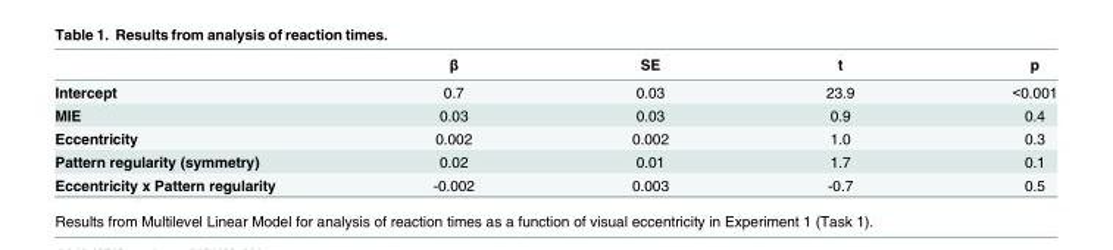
<table><thead><tr><td></td><td>β</td><td>SE</td><td>t</td><td>p</td></tr></thead><tbody><tr><td>Intercept</td><td>0.7</td><td>0.03</td><td>23.9</td><td>&lt;0.001</td></tr><tr><td>MIE</td><td>0.03</td><td>0.03</td><td>0.9</td><td>0.4</td></tr><tr><td>Eccentricity</td><td>0.002</td><td>0.002</td><td>1.0</td><td>0.3</td></tr><tr><td>Pattern regularity (symmetry)</td><td>0.02</td><td>0.01</td><td>1.7</td><td>0.1</td></tr><tr><td>Eccentricity x Pattern regularity</td><td>-0.002</td><td>0.003</td><td>-0.7</td><td>0.5</td></tr></tbody></table>